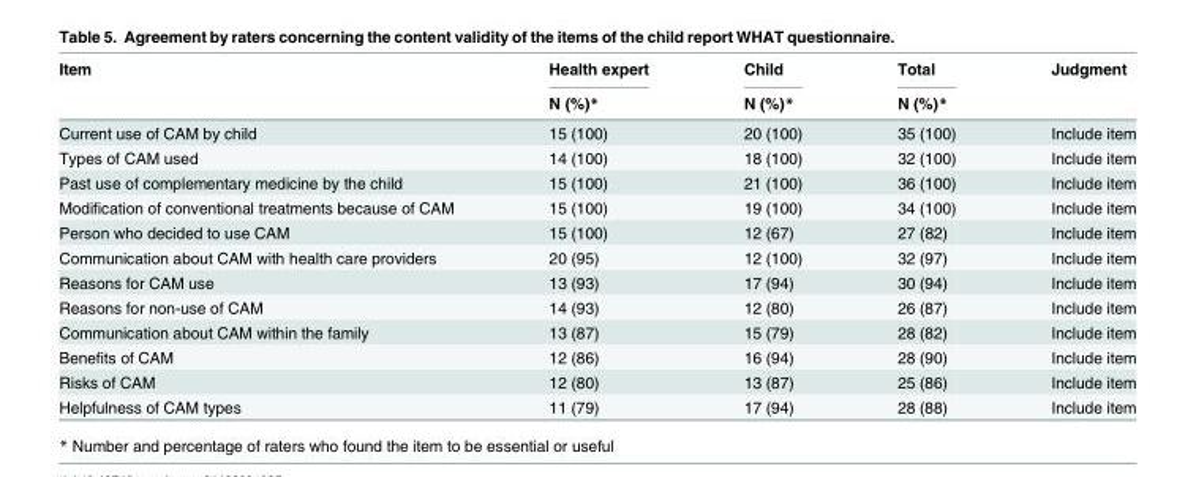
<table><thead><tr><td rowspan="2">Item</td><td rowspan="2">Health expert N (%)*</td><td rowspan="2">Child N (%)*</td><td rowspan="2">Total N (%)*</td><td rowspan="2">Judgment</td></tr><tr></tr></thead><tbody><tr><td>Current use of CAM by child</td><td>15 (100)</td><td>20 (100)</td><td>35 (100)</td><td>Include item</td></tr><tr><td>Types of CAM used</td><td>14 (100)</td><td>18 (100)</td><td>32 (100)</td><td>Include item</td></tr><tr><td>Past use of complementary medicine by the child</td><td>15 (100)</td><td>21 (100)</td><td>36 (100)</td><td>Include item</td></tr><tr><td>Modification of conventional treatments because of CAM</td><td>15 (100)</td><td>19 (100)</td><td>34 (100)</td><td>Include item</td></tr><tr><td>Person who decided to use CAM</td><td>15 (100)</td><td>12 (67)</td><td>27 (82)</td><td>Include item</td></tr><tr><td>Communication about CAM with health care providers</td><td>20 (95)</td><td>12 (100)</td><td>32 (97)</td><td>Include item</td></tr><tr><td>Reasons for CAM use</td><td>13 (93)</td><td>17 (94)</td><td>30 (94)</td><td>Include item</td></tr><tr><td>Reasons for non-use of CAM</td><td>14 (93)</td><td>12 (80)</td><td>26 (87)</td><td>Include item</td></tr><tr><td>Communication about CAM within the family</td><td>13 (87)</td><td>15 (79)</td><td>28 (82)</td><td>Include item</td></tr><tr><td>Benefits of CAM</td><td>12 (86)</td><td>16 (94)</td><td>28 (90)</td><td>Include item</td></tr><tr><td>Risks of CAM</td><td>12 (80)</td><td>13 (87)</td><td>25 (86)</td><td>Include item</td></tr><tr><td>Helpfulness of CAM types</td><td>11 (79)</td><td>17 (94)</td><td>28 (88)</td><td>Include item</td></tr></tbody></table>